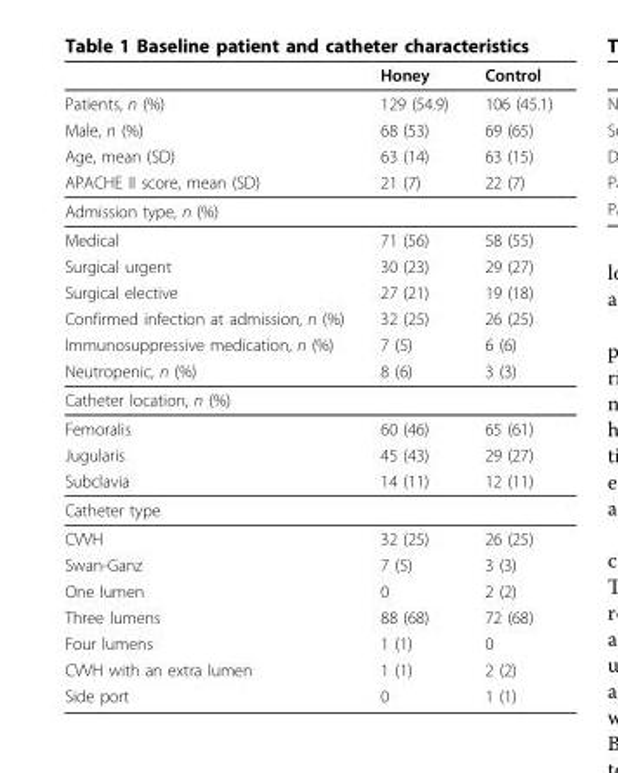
<table><thead><tr><td></td><td>Honey</td><td>Control</td></tr></thead><tbody><tr><td>Patients, n (%)</td><td>129 (54.9)</td><td>106 (45.1)</td></tr><tr><td>Male, n (%)</td><td>68 (53)</td><td>69 (65)</td></tr><tr><td>Age, mean (SD)</td><td>63 (14)</td><td>63 (15)</td></tr><tr><td>APACHE II score, mean (SD)</td><td>21 (7)</td><td>22 (7)</td></tr><tr><td colspan="3">Admission type, n (%)</td></tr><tr><td>Medical</td><td>71 (56)</td><td>58 (55)</td></tr><tr><td>Surgical urgent</td><td>30 (23)</td><td>29 (27)</td></tr><tr><td>Surgical elective</td><td>27 (21)</td><td>19 (18)</td></tr><tr><td>Confirmed infection at admission, n (%)</td><td>32 (25)</td><td>26 (25)</td></tr><tr><td>Immunosuppressive medication, n (%)</td><td>7 (5)</td><td>6 (6)</td></tr><tr><td>Neutropenic, n (%)</td><td>8 (6)</td><td>3 (3)</td></tr><tr><td colspan="3">Catheter location, n (%)</td></tr><tr><td>Femoralis</td><td>60 (46)</td><td>65 (61)</td></tr><tr><td>Jugularis</td><td>45 (43)</td><td>29 (27)</td></tr><tr><td>Subclavia</td><td>14 (11)</td><td>12 (11)</td></tr><tr><td colspan="3">Catheter type</td></tr><tr><td>CVVH</td><td>32 (25)</td><td>26 (25)</td></tr><tr><td>Swan-Ganz</td><td>7 (5)</td><td>3 (3)</td></tr><tr><td>One lumen</td><td>0</td><td>2 (2)</td></tr><tr><td>Three lumens</td><td>88 (68)</td><td>72 (68)</td></tr><tr><td>Four lumens</td><td>1 (1)</td><td>0</td></tr><tr><td>CVVH with an extra lumen</td><td>1 (1)</td><td>2 (2)</td></tr><tr><td>Side port</td><td>0</td><td>1 (1)</td></tr></tbody></table>